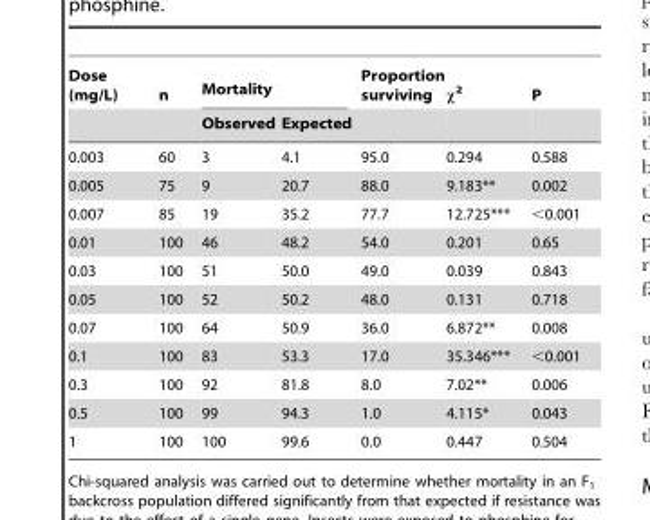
<table><thead><tr><td rowspan="2">Dose (mg/L)</td><td rowspan="2">n</td><td colspan="2">Mortality</td><td rowspan="2">Proportion surviving</td><td rowspan="2">χ<sup>2</sup></td><td rowspan="2">P</td></tr><tr><td>Observed</td><td>Expected</td></tr></thead><tbody><tr><td>0.003</td><td>60</td><td>3</td><td>4.1</td><td>95.0</td><td>0.294</td><td>0.588</td></tr><tr><td>0.005</td><td>75</td><td>9</td><td>20.7</td><td>88.0</td><td>9.183**</td><td>0.002</td></tr><tr><td>0.007</td><td>85</td><td>19</td><td>35.2</td><td>77.7</td><td>12.725***</td><td>&lt;0.001</td></tr><tr><td>0.01</td><td>100</td><td>46</td><td>48.2</td><td>54.0</td><td>0.201</td><td>0.65</td></tr><tr><td>0.03</td><td>100</td><td>51</td><td>50.0</td><td>49.0</td><td>0.039</td><td>0.843</td></tr><tr><td>0.05</td><td>100</td><td>52</td><td>50.2</td><td>48.0</td><td>0.131</td><td>0.718</td></tr><tr><td>0.07</td><td>100</td><td>64</td><td>50.9</td><td>36.0</td><td>6.872**</td><td>0.008</td></tr><tr><td>0.1</td><td>100</td><td>83</td><td>53.3</td><td>17.0</td><td>35.346***</td><td>&lt;0.001</td></tr><tr><td>0.3</td><td>100</td><td>92</td><td>81.8</td><td>8.0</td><td>7.02**</td><td>0.006</td></tr><tr><td>0.5</td><td>100</td><td>99</td><td>94.3</td><td>1.0</td><td>4.115*</td><td>0.043</td></tr><tr><td>1</td><td>100</td><td>100</td><td>99.6</td><td>0.0</td><td>0.447</td><td>0.504</td></tr></tbody></table>